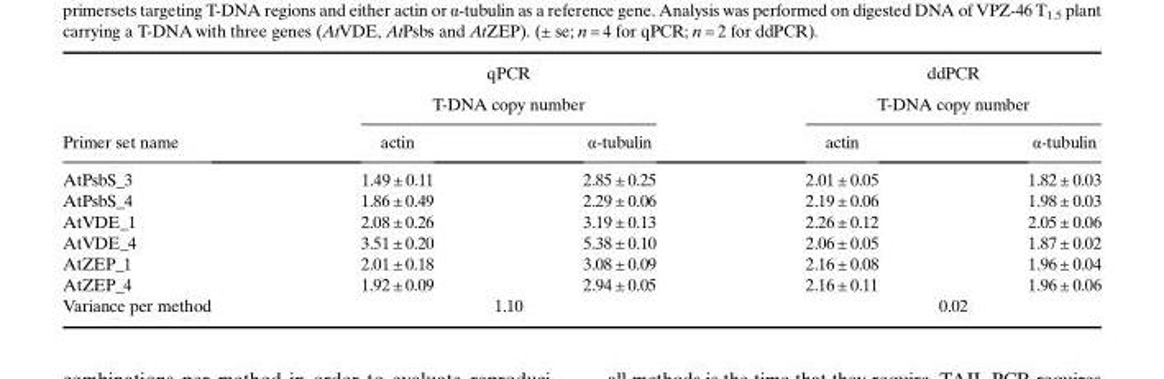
<table><thead><tr><td rowspan="3">Primer set name</td><td rowspan="2" colspan="2">qPCR T-DNA copy number</td><td rowspan="2" colspan="2">ddPCR T-DNA copy number</td></tr><tr></tr><tr><td>actin</td><td>α-tubulin</td><td>actin</td><td>α-tubulin</td></tr></thead><tbody><tr><td>AtPsbS_3</td><td>1.49 ± 0.11</td><td>2.85 ± 0.25</td><td>2.01 ± 0.05</td><td>1.82 ± 0.03</td></tr><tr><td>AtPsbS_4</td><td>1.86 ± 0.49</td><td>2.29 ± 0.06</td><td>2.19 ± 0.06</td><td>1.98 ± 0.03</td></tr><tr><td>AtVDE_1</td><td>2.08 ± 0.26</td><td>3.19 ± 0.13</td><td>2.26 ± 0.12</td><td>2.05 ± 0.06</td></tr><tr><td>AtVDE_4</td><td>3.51 ± 0.20</td><td>5.38 ± 0.10</td><td>2.06 ± 0.05</td><td>1.87 ± 0.02</td></tr><tr><td>AtZEP_1</td><td>2.01 ± 0.18</td><td>3.08 ± 0.09</td><td>2.16 ± 0.08</td><td>1.96 ± 0.04</td></tr><tr><td>AtZEP_4</td><td>1.92 ± 0.09</td><td>2.94 ± 0.05</td><td>2.16 ± 0.11</td><td>1.96 ± 0.06</td></tr><tr><td>Variance per method</td><td colspan="2">1.10</td><td colspan="2">0.02</td></tr></tbody></table>